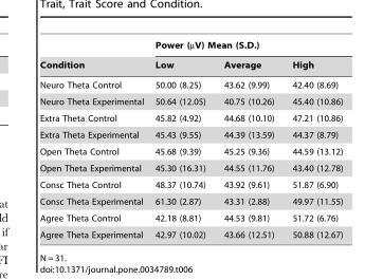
<table><thead><tr><td rowspan="2">Condition</td><td colspan="3">Power (µV) Mean (S.D.)</td></tr><tr><td>Low</td><td>Average</td><td>High</td></tr></thead><tbody><tr><td>Neuro Theta Control</td><td>50.00 (8.25)</td><td>43.62 (9.99)</td><td>42.40 (8.69)</td></tr><tr><td>Neuro Theta Experimental</td><td>50.64 (12.05)</td><td>40.75 (10.26)</td><td>45.40 (10.86)</td></tr><tr><td>Extra Theta Control</td><td>45.82 (4.92)</td><td>44.68 (10.10)</td><td>47.21 (10.86)</td></tr><tr><td>Extra Theta Experimental</td><td>45.43 (9.55)</td><td>44.39 (13.59)</td><td>44.37 (8.79)</td></tr><tr><td>Open Theta Control</td><td>45.68 (9.39)</td><td>45.25 (9.36)</td><td>44.59 (13.12)</td></tr><tr><td>Open Theta Experimental</td><td>45.30 (16.31)</td><td>44.55 (11.76)</td><td>43.40 (12.78)</td></tr><tr><td>Consc Theta Control</td><td>48.37 (10.74)</td><td>43.92 (9.61)</td><td>51.87 (6.90)</td></tr><tr><td>Consc Theta Experimental</td><td>61.30 (2.87)</td><td>43.31 (2.88)</td><td>49.97 (11.55)</td></tr><tr><td>Agree Theta Control</td><td>42.18 (8.81)</td><td>44.53 (9.81)</td><td>51.72 (6.76)</td></tr><tr><td>Agree Theta Experimental</td><td>42.97 (10.02)</td><td>43.66 (12.51)</td><td>50.88 (12.67)</td></tr></tbody></table>